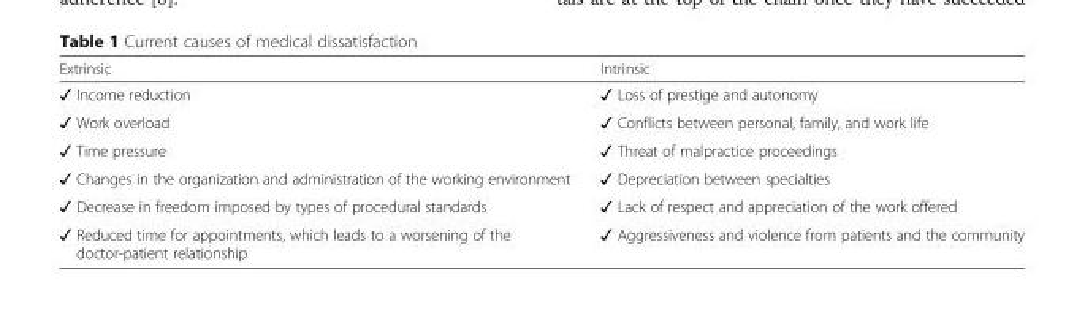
<table><thead><tr><td>Extrinsic</td><td>Intrinsic</td></tr></thead><tbody><tr><td>✓ Income reduction</td><td>✓ Loss of prestige and autonomy</td></tr><tr><td>✓ Work overload</td><td>✓ Conflicts between personal, family, and work life</td></tr><tr><td>✓ Time pressure</td><td>✓ Threat of malpractice proceedings</td></tr><tr><td>✓ Changes in the organization and administration of the working environment</td><td>✓ Depreciation between specialties</td></tr><tr><td>✓ Decrease in freedom imposed by types of procedural standards</td><td>✓ Lack of respect and appreciation of the work offered</td></tr><tr><td>✓ Reduced time for appointments, which leads to a worsening of the doctor-patient relationship</td><td>✓ Aggressiveness and violence from patients and the community</td></tr></tbody></table>